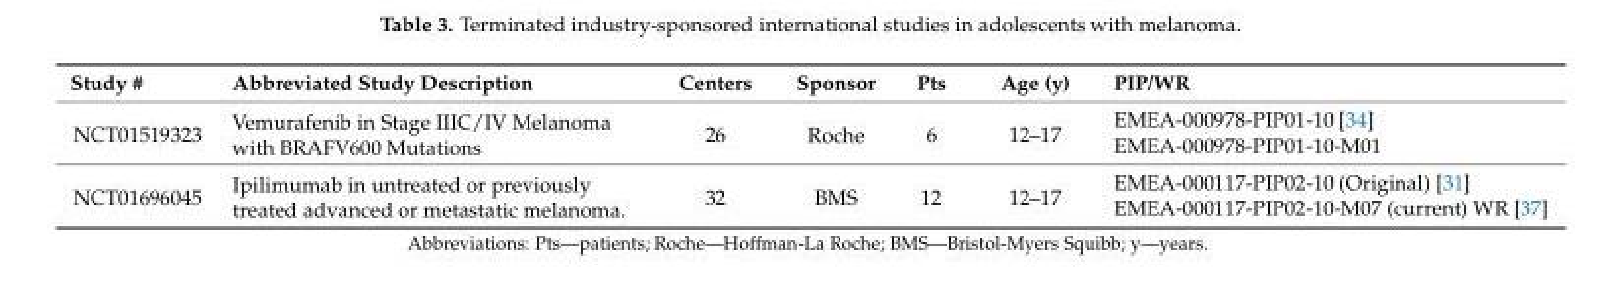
<table><thead><tr><td>Study #</td><td>Abbreviated Study Description</td><td>Centers</td><td>Sponsor</td><td>Pts</td><td>Age (y)</td><td>PIP/WR</td></tr></thead><tbody><tr><td rowspan="2">NCT01519323</td><td rowspan="2">Vemurafenib in Stage IIIC/IV Melanoma with BRAFV600 Mutations</td><td rowspan="2">26</td><td rowspan="2">Roche</td><td rowspan="2">6</td><td rowspan="2">12–17</td><td>EMEA-000978-PIP01-10 [34]</td></tr><tr><td>EMEA-000978-PIP01-10-M01</td></tr><tr><td rowspan="2">NCT01696045</td><td rowspan="2">Ipilimumab in untreated or previously treated advanced or metastatic melanoma.</td><td rowspan="2">32</td><td rowspan="2">BMS</td><td rowspan="2">12</td><td rowspan="2">12–17</td><td>EMEA-000117-PIP02-10 (Original) [31]</td></tr><tr><td>EMEA-000117-PIP02-10-M07 (current) WR [37]</td></tr></tbody></table>